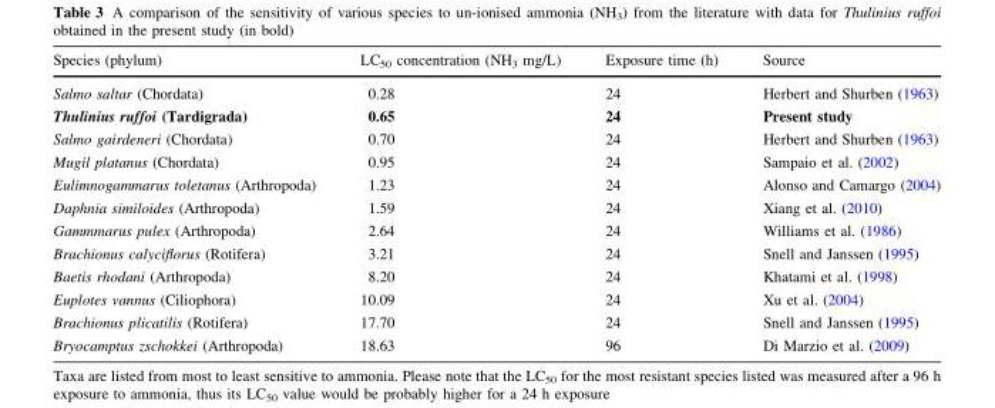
<table><thead><tr><td>Species (phylum)</td><td>LC<sub>50</sub> concentration (NH<sub>3</sub> mg/L)</td><td>Exposure time (h)</td><td>Source</td></tr></thead><tbody><tr><td>Salmo saltar (Chordata)</td><td>0.28</td><td>24</td><td>Herbert and Shurben (1963)</td></tr><tr><td>Thulinius ruffoi (Tardigrada)</td><td>0.65</td><td>24</td><td>Present study</td></tr><tr><td>Salmo gairdeneri (Chordata)</td><td>0.70</td><td>24</td><td>Herbert and Shurben (1963)</td></tr><tr><td>Mugil platanus (Chordata)</td><td>0.95</td><td>24</td><td>Sampaio et al. (2002)</td></tr><tr><td>Eulimnogammarus toletanus (Arthropoda)</td><td>1.23</td><td>24</td><td>Alonso and Camargo (2004)</td></tr><tr><td>Daphnia similoides (Arthropoda)</td><td>1.59</td><td>24</td><td>Xiang et al. (2010)</td></tr><tr><td>Gammmarus pulex (Arthropoda)</td><td>2.64</td><td>24</td><td>Williams et al. (1986)</td></tr><tr><td>Brachionus calyciflorus (Rotifera)</td><td>3.21</td><td>24</td><td>Snell and Janssen (1995)</td></tr><tr><td>Baetis rhodani (Arthropoda)</td><td>8.20</td><td>24</td><td>Khatami et al. (1998)</td></tr><tr><td>Euplotes vannus (Ciliophora)</td><td>10.09</td><td>24</td><td>Xu et al. (2004)</td></tr><tr><td>Brachionus plicatilis (Rotifera)</td><td>17.70</td><td>24</td><td>Snell and Janssen (1995)</td></tr><tr><td>Bryocamptus zschokkei (Arthropoda)</td><td>18.63</td><td>96</td><td>Di Marzio et al. (2009)</td></tr></tbody></table>